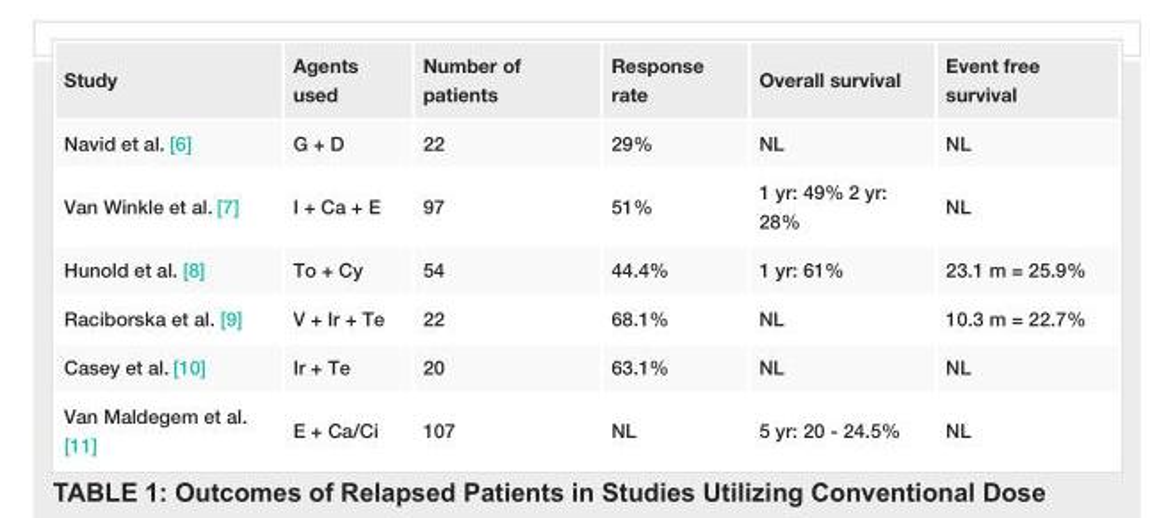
<table><tbody><tr><td>Study</td><td>Agents used</td><td>Number of patients</td><td>Response rate</td><td>Overall survival</td><td>Event free survival</td></tr><tr><td>Navid et al. [6]</td><td>G + D</td><td>22</td><td>29%</td><td>NL</td><td>NL</td></tr><tr><td>Van Winkle et al. [7]</td><td>I + Ca + E</td><td>97</td><td>51%</td><td>1 yr: 49% 2 yr: 28%</td><td>NL</td></tr><tr><td>Hunold et al. [8]</td><td>To + Cy</td><td>54</td><td>44.4%</td><td>1 yr: 61%</td><td>23.1 m = 25.9%</td></tr><tr><td>Raciborska et al. [9]</td><td>V + Ir + Te</td><td>22</td><td>68.1%</td><td>NL</td><td>10.3 m = 22.7%</td></tr><tr><td>Casey et al. [10]</td><td>Ir + Te</td><td>20</td><td>63.1%</td><td>NL</td><td>NL</td></tr><tr><td>Van Maldegem et al. [11]</td><td>E + Ca/Ci</td><td>107</td><td>NL</td><td>5 yr: 20 - 24.5%</td><td>NL</td></tr></tbody></table>